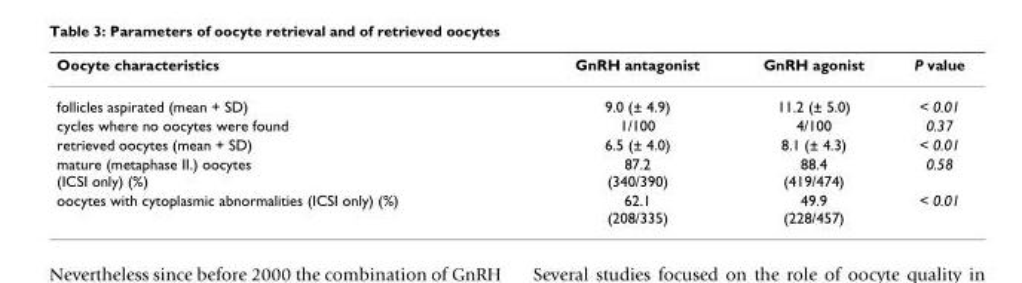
<table><thead><tr><td>Oocyte characteristics</td><td>GnRH antagonist</td><td>GnRH agonist</td><td>P value</td></tr></thead><tbody><tr><td>follicles aspirated (mean + SD)</td><td>9.0 (± 4.9)</td><td>11.2 (± 5.0)</td><td>&lt; 0.01</td></tr><tr><td>cycles where no oocytes were found</td><td>1/100</td><td>4/100</td><td>0.37</td></tr><tr><td>retrieved oocytes (mean + SD)</td><td>6.5 (± 4.0)</td><td>8.1 (± 4.3)</td><td>&lt; 0.01</td></tr><tr><td>mature (metaphase II.) oocytes (ICSI only) (%)</td><td>87.2 (340/390)</td><td>88.4 (419/474)</td><td>0.58</td></tr><tr><td>oocytes with cytoplasmic abnormalities (ICSI only) (%)</td><td>62.1 (208/335)</td><td>49.9 (228/457)</td><td>&lt; 0.01</td></tr></tbody></table>